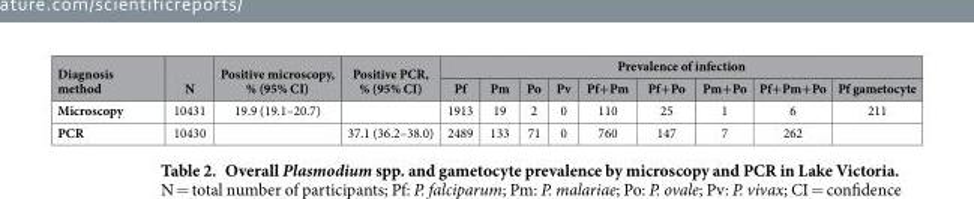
<table><thead><tr><td rowspan="2">Diagnosis method</td><td rowspan="2">N</td><td rowspan="2">Positive microscopy, % (95% CI)</td><td rowspan="2">Positive PCR, % (95% CI)</td><td colspan="9">Prevalence of infection</td></tr><tr><td>Pf</td><td>Pm</td><td>Po</td><td>Pv</td><td>Pf+Pm</td><td>Pf+Po</td><td>Pm+Po</td><td>Pf+Pm+Po</td><td>Pf gametocyte</td></tr></thead><tbody><tr><td>Microscopy</td><td>10431</td><td>19.9 (19.1–20.7)</td><td></td><td>1913</td><td>19</td><td>2</td><td>0</td><td>110</td><td>25</td><td>1</td><td>6</td><td>211</td></tr><tr><td>PCR</td><td>10430</td><td></td><td>37.1 (36.2–38.0)</td><td>2489</td><td>133</td><td>71</td><td>0</td><td>760</td><td>147</td><td>7</td><td>262</td><td></td></tr></tbody></table>